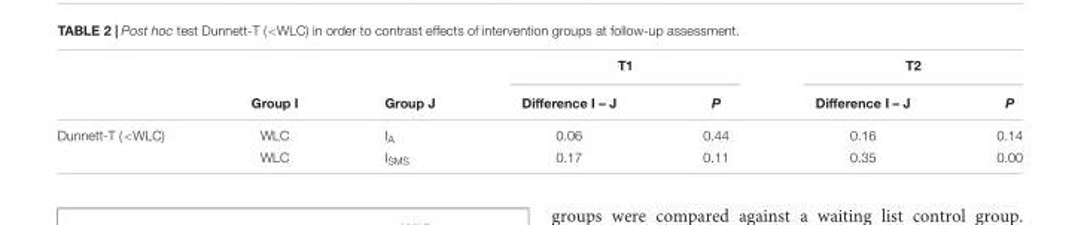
<table><thead><tr><td rowspan="2"></td><td rowspan="2">Group I</td><td rowspan="2">Group J</td><td colspan="2">T1</td><td colspan="2">T2</td></tr><tr><td>Difference I – J</td><td>P</td><td>Difference I – J</td><td>P</td></tr></thead><tbody><tr><td rowspan="2">Dunnett-T (&lt;WLC)</td><td>WLC</td><td>I<sub>A</sub></td><td>0.06</td><td>0.44</td><td>0.16</td><td>0.14</td></tr><tr><td>WLC</td><td>I<sub>SMS</sub></td><td>0.17</td><td>0.11</td><td>0.35</td><td>0.00</td></tr></tbody></table>